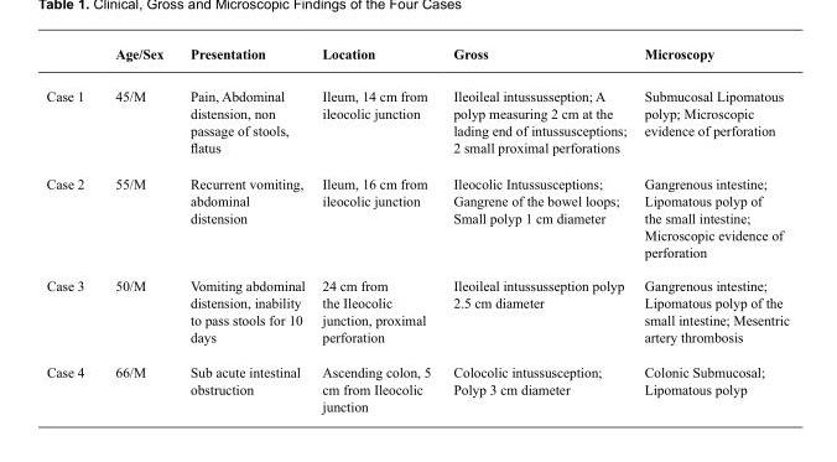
<table><thead><tr><td></td><td>Age/Sex</td><td>Presentation</td><td>Location</td><td>Gross</td><td>Microscopy</td></tr></thead><tbody><tr><td>Case 1</td><td>45/M</td><td>Pain, Abdominal distension, non passage of stools, flatus</td><td>Ileum, 14 cm from ileocolic junction</td><td>Ileoileal intussusseption; A polyp measuring 2 cm at the lading end of intussusceptions; 2 small proximal perforations</td><td>Submucosal Lipomatous polyp; Microscopic evidence of perforation</td></tr><tr><td>Case 2</td><td>55/M</td><td>Recurrent vomiting, abdominal distension</td><td>Ileum, 16 cm from ileocolic junction</td><td>Ileocolic Intussusceptions; Gangrene of the bowel loops; Small polyp 1 cm diameter</td><td>Gangrenous intestine; Lipomatous polyp of the small intestine; Microscopic evidence of perforation</td></tr><tr><td>Case 3</td><td>50/M</td><td>Vomiting abdominal distension, inability to pass stools for 10 days</td><td>24 cm from the Ileocolic junction, proximal perforation</td><td>Ileoileal intussusseption polyp 2.5 cm diameter</td><td>Gangrenous intestine; Lipomatous polyp of the small intestine; Mesentric artery thrombosis</td></tr><tr><td>Case 4</td><td>66/M</td><td>Sub acute intestinal obstruction</td><td>Ascending colon, 5 cm from Ileocolic junction</td><td>Colocolic intussusception; Polyp 3 cm diameter</td><td>Colonic Submucosal; Lipomatous polyp</td></tr></tbody></table>